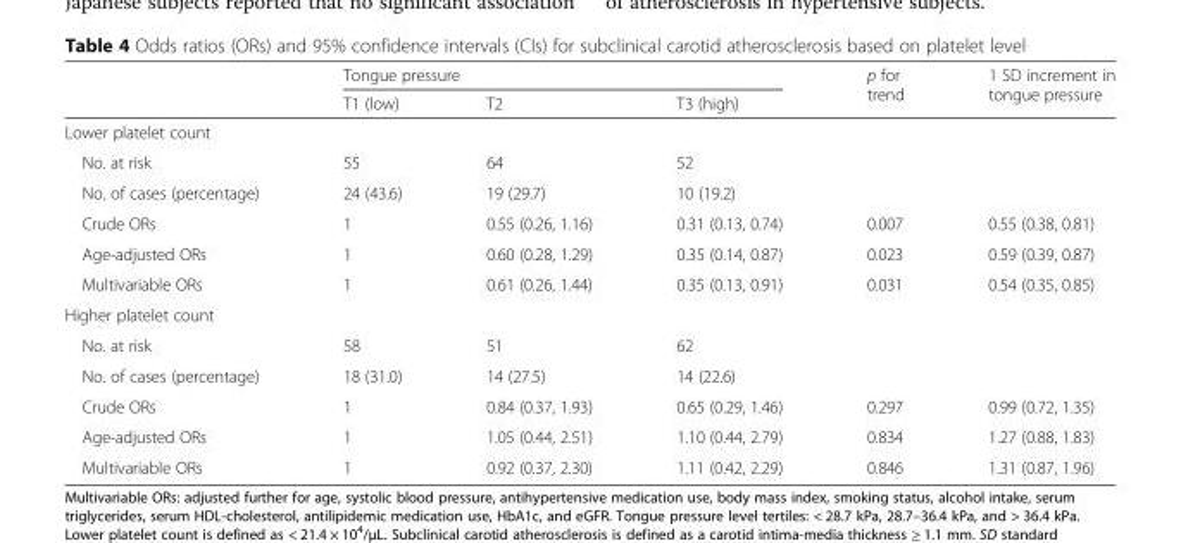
<table><thead><tr><td rowspan="2"></td><td colspan="3">Tongue pressure</td><td rowspan="2">p for trend</td><td rowspan="2">1 SD increment in tongue pressure</td></tr><tr><td>T1 (low)</td><td>T2</td><td>T3 (high)</td></tr></thead><tbody><tr><td colspan="6">Lower platelet count</td></tr><tr><td>No. at risk</td><td>55</td><td>64</td><td>52</td><td></td><td></td></tr><tr><td>No. of cases (percentage)</td><td>24 (43.6)</td><td>19 (29.7)</td><td>10 (19.2)</td><td></td><td></td></tr><tr><td>Crude ORs</td><td>1</td><td>0.55 (0.26, 1.16)</td><td>0.31 (0.13, 0.74)</td><td>0.007</td><td>0.55 (0.38, 0.81)</td></tr><tr><td>Age-adjusted ORs</td><td>1</td><td>0.60 (0.28, 1.29)</td><td>0.35 (0.14, 0.87)</td><td>0.023</td><td>0.59 (0.39, 0.87)</td></tr><tr><td>Multivariable ORs</td><td>1</td><td>0.61 (0.26, 1.44)</td><td>0.35 (0.13, 0.91)</td><td>0.031</td><td>0.54 (0.35, 0.85)</td></tr><tr><td colspan="6">Higher platelet count</td></tr><tr><td>No. at risk</td><td>58</td><td>51</td><td>62</td><td></td><td></td></tr><tr><td>No. of cases (percentage)</td><td>18 (31.0)</td><td>14 (27.5)</td><td>14 (22.6)</td><td></td><td></td></tr><tr><td>Crude ORs</td><td>1</td><td>0.84 (0.37, 1.93)</td><td>0.65 (0.29, 1.46)</td><td>0.297</td><td>0.99 (0.72, 1.35)</td></tr><tr><td>Age-adjusted ORs</td><td>1</td><td>1.05 (0.44, 2.51)</td><td>1.10 (0.44, 2.79)</td><td>0.834</td><td>1.27 (0.88, 1.83)</td></tr><tr><td>Multivariable ORs</td><td>1</td><td>0.92 (0.37, 2.30)</td><td>1.11 (0.42, 2.29)</td><td>0.846</td><td>1.31 (0.87, 1.96)</td></tr></tbody></table>